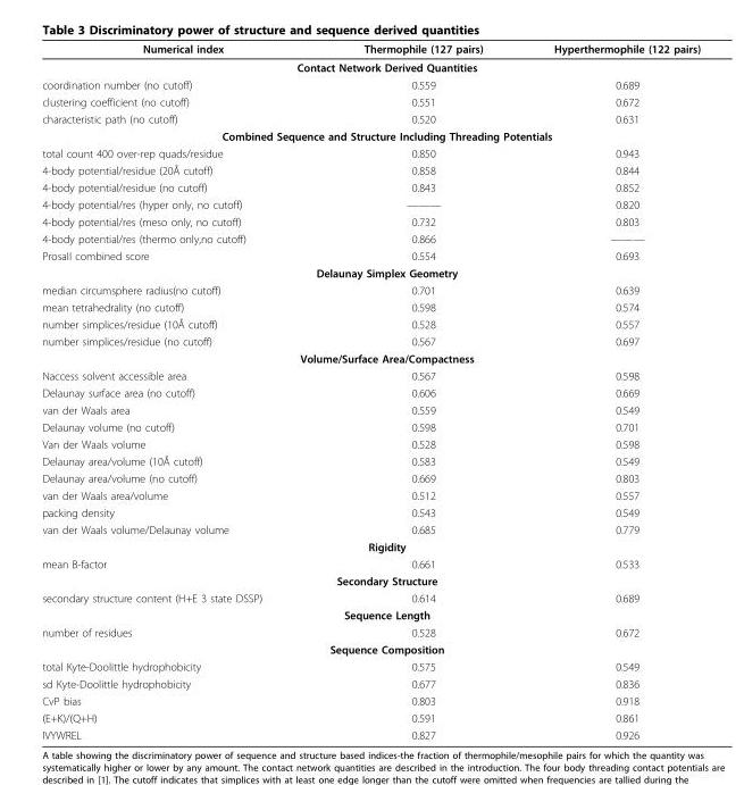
<table><thead><tr><td>Numerical index</td><td>Thermophile (127 pairs)</td><td>Hyperthermophile (122 pairs)</td></tr></thead><tbody><tr><td colspan="3">Contact Network Derived Quantities</td></tr><tr><td>coordination number (no cutoff)</td><td>0.559</td><td>0.689</td></tr><tr><td>clustering coefficient (no cutoff)</td><td>0.551</td><td>0.672</td></tr><tr><td>characteristic path (no cutoff)</td><td>0.520</td><td>0.631</td></tr><tr><td colspan="3">Combined Sequence and Structure Including Threading Potentials</td></tr><tr><td>total count 400 over-rep quads/residue</td><td>0.850</td><td>0.943</td></tr><tr><td>4-body potential/residue (20Å cutoff)</td><td>0.858</td><td>0.844</td></tr><tr><td>4-body potential/residue (no cutoff)</td><td>0.843</td><td>0.852</td></tr><tr><td>4-body potential/res (hyper only, no cutoff)</td><td>———</td><td>0.820</td></tr><tr><td>4-body potential/res (meso only, no cutoff)</td><td>0.732</td><td>0.803</td></tr><tr><td>4-body potential/res (thermo only,no cutoff)</td><td>0.866</td><td>———</td></tr><tr><td>ProsaII combined score</td><td>0.554</td><td>0.693</td></tr><tr><td colspan="3">Delaunay Simplex Geometry</td></tr><tr><td>median circumsphere radius(no cutoff)</td><td>0.701</td><td>0.639</td></tr><tr><td>mean tetrahedrality (no cutoff)</td><td>0.598</td><td>0.574</td></tr><tr><td>number simplices/residue (10Å cutoff)</td><td>0.528</td><td>0.557</td></tr><tr><td>number simplices/residue (no cutoff)</td><td>0.567</td><td>0.697</td></tr><tr><td colspan="3">Volume/Surface Area/Compactness</td></tr><tr><td>Naccess solvent accessible area</td><td>0.567</td><td>0.598</td></tr><tr><td>Delaunay surface area (no cutoff)</td><td>0.606</td><td>0.669</td></tr><tr><td>van der Waals area</td><td>0.559</td><td>0.549</td></tr><tr><td>Delaunay volume (no cutoff)</td><td>0.598</td><td>0.701</td></tr><tr><td>Van der Waals volume</td><td>0.528</td><td>0.598</td></tr><tr><td>Delaunay area/volume (10Å cutoff)</td><td>0.583</td><td>0.549</td></tr><tr><td>Delaunay area/volume (no cutoff)</td><td>0.669</td><td>0.803</td></tr><tr><td>van der Waals area/volume</td><td>0.512</td><td>0.557</td></tr><tr><td>packing density</td><td>0.543</td><td>0.549</td></tr><tr><td>van der Waals volume/Delaunay volume</td><td>0.685</td><td>0.779</td></tr><tr><td colspan="3">Rigidity</td></tr><tr><td>mean B-factor</td><td>0.661</td><td>0.533</td></tr><tr><td colspan="3">Secondary Structure</td></tr><tr><td>secondary structure content (H+E 3 state DSSP)</td><td>0.614</td><td>0.689</td></tr><tr><td colspan="3">Sequence Length</td></tr><tr><td>number of residues</td><td>0.528</td><td>0.672</td></tr><tr><td colspan="3">Sequence Composition</td></tr><tr><td>total Kyte-Doolittle hydrophobicity</td><td>0.575</td><td>0.549</td></tr><tr><td>sd Kyte-Doolittle hydrophobicity</td><td>0.677</td><td>0.836</td></tr><tr><td>CvP bias</td><td>0.803</td><td>0.918</td></tr><tr><td>(E+K)/(Q+H)</td><td>0.591</td><td>0.861</td></tr><tr><td>IVYWREL</td><td>0.827</td><td>0.926</td></tr></tbody></table>